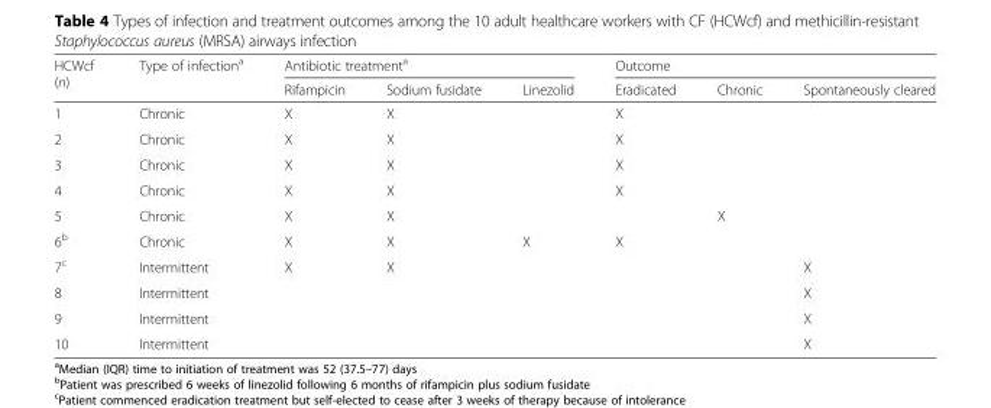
<table><thead><tr><td rowspan="2">HCWcf (n)</td><td rowspan="2">Type of infection<sup>a</sup></td><td colspan="3">Antibiotic treatment<sup>a</sup></td><td colspan="3">Outcome</td></tr><tr><td>Rifampicin</td><td>Sodium fusidate</td><td>Linezolid</td><td>Eradicated</td><td>Chronic</td><td>Spontaneously cleared</td></tr></thead><tbody><tr><td>1</td><td>Chronic</td><td>X</td><td>X</td><td></td><td>X</td><td></td><td></td></tr><tr><td>2</td><td>Chronic</td><td>X</td><td>X</td><td></td><td>X</td><td></td><td></td></tr><tr><td>3</td><td>Chronic</td><td>X</td><td>X</td><td></td><td>X</td><td></td><td></td></tr><tr><td>4</td><td>Chronic</td><td>X</td><td>X</td><td></td><td>X</td><td></td><td></td></tr><tr><td>5</td><td>Chronic</td><td>X</td><td>X</td><td></td><td></td><td>X</td><td></td></tr><tr><td>6<sup>b</sup></td><td>Chronic</td><td>X</td><td>X</td><td>X</td><td>X</td><td></td><td></td></tr><tr><td>7<sup>c</sup></td><td>Intermittent</td><td>X</td><td>X</td><td></td><td></td><td></td><td>X</td></tr><tr><td>8</td><td>Intermittent</td><td></td><td></td><td></td><td></td><td></td><td>X</td></tr><tr><td>9</td><td>Intermittent</td><td></td><td></td><td></td><td></td><td></td><td>X</td></tr><tr><td>10</td><td>Intermittent</td><td></td><td></td><td></td><td></td><td></td><td>X</td></tr></tbody></table>